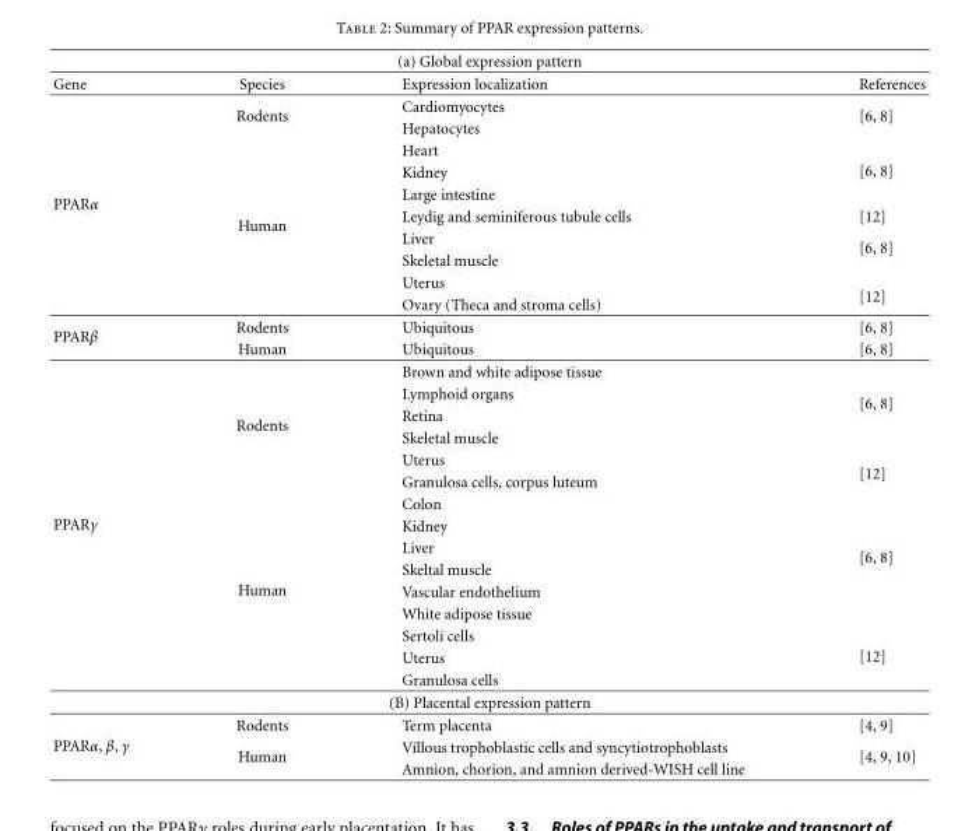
<table><thead><tr><td colspan="4">(a) Global expression pattern</td></tr><tr><td>Gene</td><td>Species</td><td>Expression localization</td><td>References</td></tr></thead><tbody><tr><td rowspan="10">PPARα</td><td rowspan="5">Rodents</td><td>Cardiomyocytes</td><td rowspan="2">[6, 8]</td></tr><tr><td>Hepatocytes</td></tr><tr><td>Heart</td><td rowspan="3">[6, 8]</td></tr><tr><td>Kidney</td></tr><tr><td>Large intestine</td></tr><tr><td rowspan="5">Human</td><td>Leydig and seminiferous tubule cells</td><td>[12]</td></tr><tr><td>Liver</td><td rowspan="2">[6, 8]</td></tr><tr><td>Skeletal muscle</td></tr><tr><td>Uterus</td><td rowspan="2">[12]</td></tr><tr><td>Ovary (Theca and stroma cells)</td></tr><tr><td rowspan="2">PPARβ</td><td>Rodents</td><td>Ubiquitous</td><td>[6, 8]</td></tr><tr><td>Human</td><td>Ubiquitous</td><td>[6, 8]</td></tr><tr><td rowspan="15">PPARγ</td><td rowspan="6">Rodents</td><td>Brown and white adipose tissue</td><td rowspan="4">[6, 8]</td></tr><tr><td>Lymphoid organs</td></tr><tr><td>Retina</td></tr><tr><td>Skeletal muscle</td></tr><tr><td>Uterus</td><td rowspan="2">[12]</td></tr><tr><td>Granulosa cells, corpus luteum</td></tr><tr><td rowspan="9">Human</td><td>Colon</td><td rowspan="6">[6, 8]</td></tr><tr><td>Kidney</td></tr><tr><td>Liver</td></tr><tr><td>Skeltal muscle</td></tr><tr><td>Vascular endothelium</td></tr><tr><td>White adipose tissue</td></tr><tr><td>Sertoli cells</td><td rowspan="3">[12]</td></tr><tr><td>Uterus</td></tr><tr><td>Granulosa cells</td></tr><tr><td colspan="4">(B) Placental expression pattern</td></tr><tr><td rowspan="3">PPARα, β, γ</td><td>Rodents</td><td>Term placenta</td><td>[4, 9]</td></tr><tr><td rowspan="2">Human</td><td>Villous trophoblastic cells and syncytiotrophoblasts</td><td rowspan="2">[4, 9, 10]</td></tr><tr><td>Amnion, chorion, and amnion derived-WISH cell line</td></tr></tbody></table>